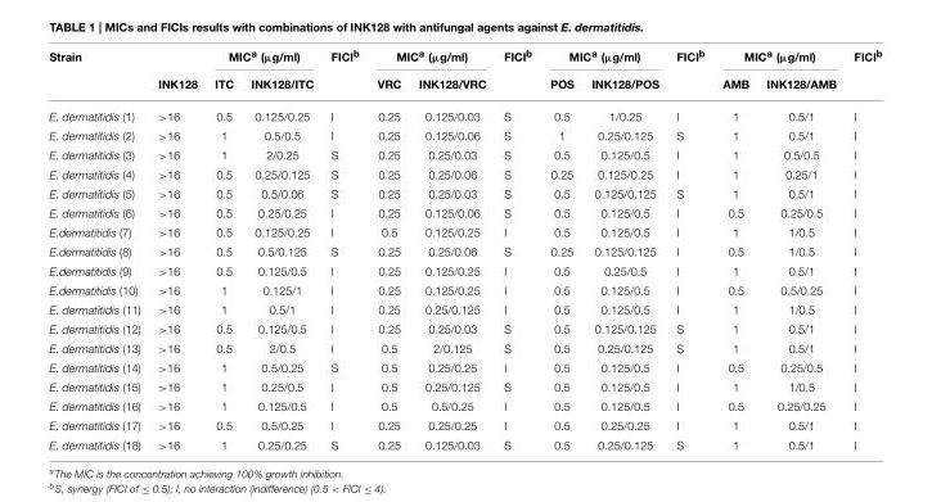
<table><thead><tr><td rowspan="2">Strain</td><td rowspan="2">INK128</td><td colspan="2">MIC<sup>a</sup> (µg/ml)</td><td rowspan="2">FICI<sup>b</sup></td><td colspan="2">MIC<sup>a</sup> (µg/ml)</td><td rowspan="2">FICI<sup>b</sup></td><td colspan="2">MIC<sup>a</sup> (µg/ml)</td><td rowspan="2">FICIb</td><td colspan="2">MIC<sup>a</sup> (µg/ml)</td><td rowspan="2">FICIb</td></tr><tr><td>ITC</td><td>INK128/ITC</td><td>VRC</td><td>INK128/VRC</td><td>POS</td><td>INK128/POS</td><td>AMB</td><td>INK128/AMB</td></tr></thead><tbody><tr><td>E. dermatitidis (1)</td><td>&gt;16</td><td>0.5</td><td>0.125/0.25</td><td>I</td><td>0.25</td><td>0.125/0.03</td><td>S</td><td>0.5</td><td>1/0.25</td><td>I</td><td>1</td><td>0.5/1</td><td>I</td></tr><tr><td>E. dermatitidis (2)</td><td>&gt;16</td><td>1</td><td>0.5/0.5</td><td>I</td><td>0.25</td><td>0.125/0.06</td><td>S</td><td>1</td><td>0.25/0.125</td><td>S</td><td>1</td><td>0.5/1</td><td>I</td></tr><tr><td>E. dermatitidis (3)</td><td>&gt;16</td><td>1</td><td>2/0.25</td><td>S</td><td>0.25</td><td>0.25/0.03</td><td>S</td><td>0.5</td><td>0.125/0.5</td><td>I</td><td>1</td><td>0.5/0.5</td><td>I</td></tr><tr><td>E. dermatitidis (4)</td><td>&gt;16</td><td>0.5</td><td>0.25/0.125</td><td>S</td><td>0.25</td><td>0.25/0.06</td><td>S</td><td>0.25</td><td>0.125/0.25</td><td>I</td><td>1</td><td>0.25/1</td><td>I</td></tr><tr><td>E. dermatitidis (5)</td><td>&gt;16</td><td>0.5</td><td>0.5/0.06</td><td>S</td><td>0.25</td><td>0.25/0.03</td><td>S</td><td>0.5</td><td>0.125/0.125</td><td>S</td><td>1</td><td>0.5/1</td><td>I</td></tr><tr><td>E. dermatitidis (6)</td><td>&gt;16</td><td>0.5</td><td>0.25/0.25</td><td>I</td><td>0.25</td><td>0.125/0.06</td><td>S</td><td>0.5</td><td>0.125/0.5</td><td>I</td><td>0.5</td><td>0.25/0.5</td><td>I</td></tr><tr><td>E.dermatitidis (7)</td><td>&gt;16</td><td>0.5</td><td>0.125/0.25</td><td>I</td><td>0.5</td><td>0.125/0.25</td><td>I</td><td>0.5</td><td>0.125/0.5</td><td>I</td><td>1</td><td>1/0.5</td><td>I</td></tr><tr><td>E.dermatitidis (8)</td><td>&gt;16</td><td>0.5</td><td>0.5/0.125</td><td>S</td><td>0.25</td><td>0.25/0.06</td><td>S</td><td>0.25</td><td>0.125/0.125</td><td>I</td><td>0.5</td><td>1/0.5</td><td>I</td></tr><tr><td>E.dermatitidis (9)</td><td>&gt;16</td><td>0.5</td><td>0.125/0.5</td><td>I</td><td>0.25</td><td>0.125/0.25</td><td>I</td><td>0.5</td><td>0.25/0.5</td><td>I</td><td>1</td><td>0.5/1</td><td>I</td></tr><tr><td>E.dermatitidis (10)</td><td>&gt;16</td><td>1</td><td>0.125/1</td><td>I</td><td>0.25</td><td>0.125/0.25</td><td>I</td><td>0.5</td><td>0.125/0.5</td><td>I</td><td>0.5</td><td>0.5/0.25</td><td>I</td></tr><tr><td>E. dermatitidis (11)</td><td>&gt;16</td><td>1</td><td>0.5/1</td><td>I</td><td>0.25</td><td>0.25/0.125</td><td>I</td><td>0.5</td><td>0.125/0.5</td><td>I</td><td>1</td><td>1/0.5</td><td>I</td></tr><tr><td>E. dermatitidis (12)</td><td>&gt;16</td><td>0.5</td><td>0.125/0.5</td><td>I</td><td>0.25</td><td>0.25/0.03</td><td>S</td><td>0.5</td><td>0.125/0.125</td><td>S</td><td>1</td><td>0.5/1</td><td>I</td></tr><tr><td>E. dermatitidis (13)</td><td>&gt;16</td><td>0.5</td><td>2/0.5</td><td>I</td><td>0.5</td><td>2/0.125</td><td>S</td><td>0.5</td><td>0.25/0.125</td><td>S</td><td>1</td><td>0.5/1</td><td>I</td></tr><tr><td>E. dermatitidis (14)</td><td>&gt;16</td><td>1</td><td>0.5/0.25</td><td>S</td><td>0.5</td><td>0.25/0.25</td><td>I</td><td>0.5</td><td>0.125/0.5</td><td>I</td><td>0.5</td><td>0.25/0.5</td><td>I</td></tr><tr><td>E. dermatitidis (15)</td><td>&gt;16</td><td>1</td><td>0.25/0.5</td><td>I</td><td>0.5</td><td>0.25/0.125</td><td>S</td><td>0.5</td><td>0.125/0.5</td><td>I</td><td>1</td><td>1/0.5</td><td>I</td></tr><tr><td>E. dermatitidis (16)</td><td>&gt;16</td><td>1</td><td>0.125/0.5</td><td>I</td><td>0.5</td><td>0.5/0.25</td><td>I</td><td>0.5</td><td>0.125/0.5</td><td>I</td><td>0.5</td><td>0.25/0.25</td><td>I</td></tr><tr><td>E. dermatitidis (17)</td><td>&gt;16</td><td>0.5</td><td>0.5/0.25</td><td>I</td><td>0.25</td><td>0.25/0.25</td><td>I</td><td>0.5</td><td>0.25/0.25</td><td>I</td><td>1</td><td>0.5/1</td><td>I</td></tr><tr><td>E. dermatitidis (18)</td><td>&gt;16</td><td>1</td><td>0.25/0.25</td><td>S</td><td>0.25</td><td>0.125/0.03</td><td>S</td><td>0.5</td><td>0.25/0.125</td><td>S</td><td>1</td><td>0.5/1</td><td>I</td></tr></tbody></table>